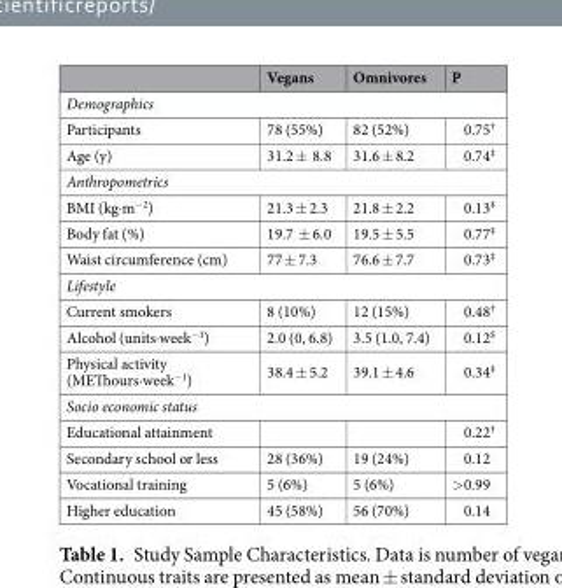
<table><thead><tr><td></td><td>Vegans</td><td>Omnivores</td><td>P</td></tr></thead><tbody><tr><td colspan="4">Demographics</td></tr><tr><td>Participants</td><td>78 (55%)</td><td>82 (52%)</td><td>0.75<sup>†</sup></td></tr><tr><td>Age (y)</td><td>31.2 ± 8.8</td><td>31.6 ± 8.2</td><td>0.74<sup>‡</sup></td></tr><tr><td colspan="4">Anthropometrics</td></tr><tr><td>BMI (kg·m<sup>−2</sup>)</td><td>21.3 ± 2.3</td><td>21.8 ± 2.2</td><td>0.13<sup>‡</sup></td></tr><tr><td>Body fat (%)</td><td>19.7 ± 6.0</td><td>19.5 ± 5.5</td><td>0.77<sup>‡</sup></td></tr><tr><td>Waist circumference (cm)</td><td>77 ± 7.3</td><td>76.6 ± 7.7</td><td>0.73<sup>‡</sup></td></tr><tr><td colspan="4">Lifestyle</td></tr><tr><td>Current smokers</td><td>8 (10%)</td><td>12 (15%)</td><td>0.48<sup>†</sup></td></tr><tr><td>Alcohol (units·week<sup>−1</sup>)</td><td>2.0 (0, 6.8)</td><td>3.5 (1.0, 7.4)</td><td>0.12<sup>$</sup></td></tr><tr><td>Physical activity (METhours·week<sup>−1</sup>)</td><td>38.4 ± 5.2</td><td>39.1 ± 4.6</td><td>0.34<sup>‡</sup></td></tr><tr><td colspan="4">Socio economic status</td></tr><tr><td>Educational attainment</td><td></td><td></td><td>0.22<sup>†</sup></td></tr><tr><td>Secondary school or less</td><td>28 (36%)</td><td>19 (24%)</td><td>0.12</td></tr><tr><td>Vocational training</td><td>5 (6%)</td><td>5 (6%)</td><td>&gt;0.99</td></tr><tr><td>Higher education</td><td>45 (58%)</td><td>56 (70%)</td><td>0.14</td></tr></tbody></table>